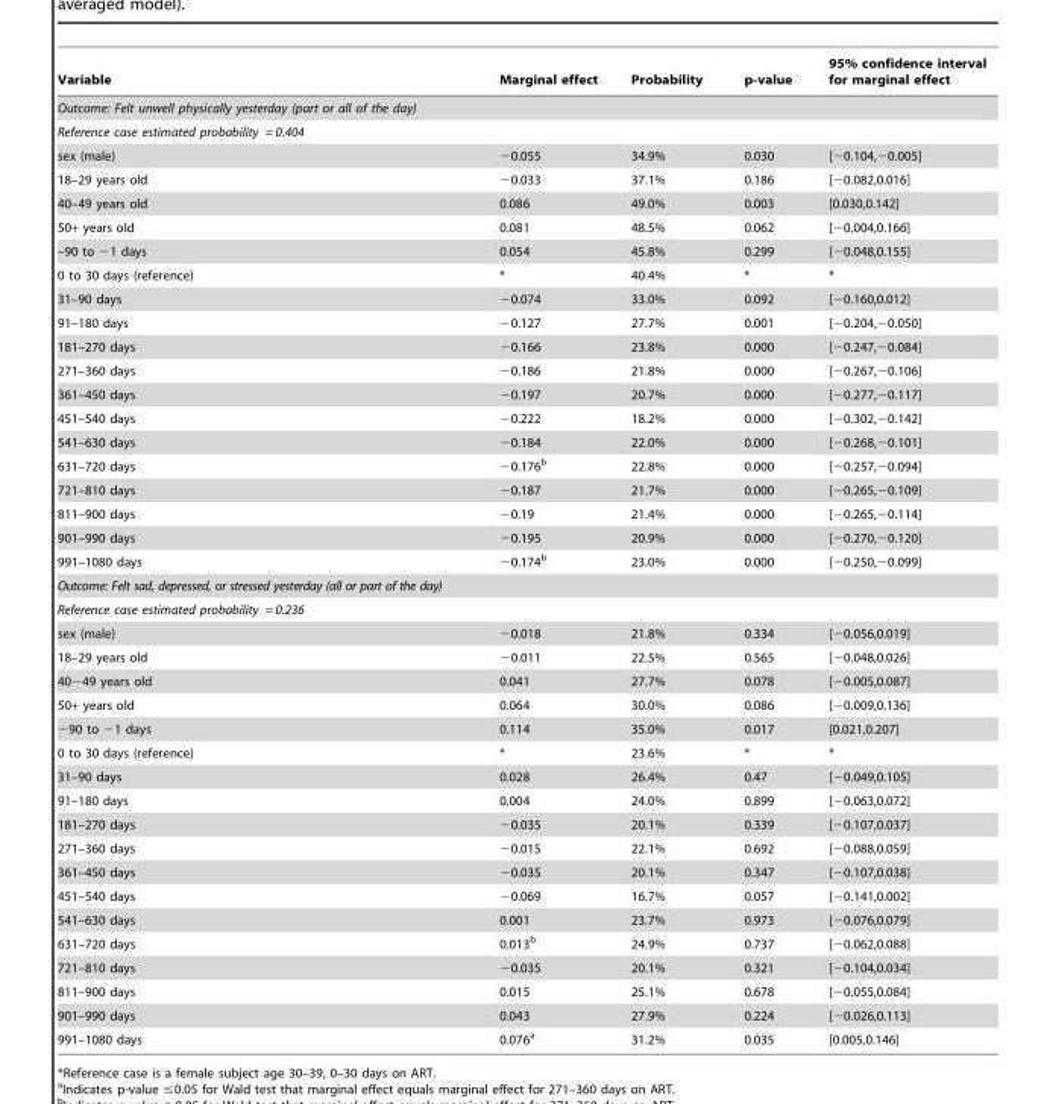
<table><thead><tr><td>Variable</td><td>Marginal effect</td><td>Probability</td><td>p-value</td><td>95% confidence interval for marginal effect</td></tr></thead><tbody><tr><td colspan="5">Outcome: Felt unwell physically yesterday (part or all of the day)</td></tr><tr><td colspan="5">Reference case estimated probability = 0.404</td></tr><tr><td>sex (male)</td><td>−0.055</td><td>34.9%</td><td>0.030</td><td>[−0.104,−0.005]</td></tr><tr><td>18–29 years old</td><td>−0.033</td><td>37.1%</td><td>0.186</td><td>[−0.082,0.016]</td></tr><tr><td>40–49 years old</td><td>0.086</td><td>49.0%</td><td>0.003</td><td>[0.030,0.142]</td></tr><tr><td>50+ years old</td><td>0.081</td><td>48.5%</td><td>0.062</td><td>[−0.004,0.166]</td></tr><tr><td>–90 to −1 days</td><td>0.054</td><td>45.8%</td><td>0.299</td><td>[−0.048,0.155]</td></tr><tr><td>0 to 30 days (reference)</td><td>*</td><td>40.4%</td><td>*</td><td>*</td></tr><tr><td>31–90 days</td><td>−0.074</td><td>33.0%</td><td>0.092</td><td>[−0.160,0.012]</td></tr><tr><td>91–180 days</td><td>−0.127</td><td>27.7%</td><td>0.001</td><td>[−0.204,−0.050]</td></tr><tr><td>181–270 days</td><td>−0.166</td><td>23.8%</td><td>0.000</td><td>[−0.247,−0.084]</td></tr><tr><td>271–360 days</td><td>−0.186</td><td>21.8%</td><td>0.000</td><td>[−0.267,−0.106]</td></tr><tr><td>361–450 days</td><td>−0.197</td><td>20.7%</td><td>0.000</td><td>[−0.277,−0.117]</td></tr><tr><td>451–540 days</td><td>−0.222</td><td>18.2%</td><td>0.000</td><td>[−0.302,−0.142]</td></tr><tr><td>541–630 days</td><td>−0.184</td><td>22.0%</td><td>0.000</td><td>[−0.268,−0.101]</td></tr><tr><td>631–720 days</td><td>−0.176<sup>b</sup></td><td>22.8%</td><td>0.000</td><td>[−0.257,−0.094]</td></tr><tr><td>721–810 days</td><td>−0.187</td><td>21.7%</td><td>0.000</td><td>[−0.265,−0.109]</td></tr><tr><td>811–900 days</td><td>−0.19</td><td>21.4%</td><td>0.000</td><td>[−0.265,−0.114]</td></tr><tr><td>901–990 days</td><td>−0.195</td><td>20.9%</td><td>0.000</td><td>[−0.270,−0.120]</td></tr><tr><td>991–1080 days</td><td>−0.174<sup>b</sup></td><td>23.0%</td><td>0.000</td><td>[−0.250,−0.099]</td></tr><tr><td colspan="5">Outcome: Felt sad, depressed, or stressed yesterday (all or part of the day)</td></tr><tr><td colspan="5">Reference case estimated probability = 0.236</td></tr><tr><td>sex (male)</td><td>−0.018</td><td>21.8%</td><td>0.334</td><td>[−0.056,0.019]</td></tr><tr><td>18–29 years old</td><td>−0.011</td><td>22.5%</td><td>0.565</td><td>[−0.048,0.026]</td></tr><tr><td>40−49 years old</td><td>0.041</td><td>27.7%</td><td>0.078</td><td>[−0.005,0.087]</td></tr><tr><td>50+ years old</td><td>0.064</td><td>30.0%</td><td>0.086</td><td>[−0.009,0.136]</td></tr><tr><td>−90 to −1 days</td><td>0.114</td><td>35.0%</td><td>0.017</td><td>[0.021,0.207]</td></tr><tr><td>0 to 30 days (reference)</td><td>*</td><td>23.6%</td><td>*</td><td>*</td></tr><tr><td>31–90 days</td><td>0.028</td><td>26.4%</td><td>0.47</td><td>[−0.049,0.105]</td></tr><tr><td>91–180 days</td><td>0.004</td><td>24.0%</td><td>0.899</td><td>[−0.063,0.072]</td></tr><tr><td>181–270 days</td><td>−0.035</td><td>20.1%</td><td>0.339</td><td>[−0.107,0.037]</td></tr><tr><td>271–360 days</td><td>−0.015</td><td>22.1%</td><td>0.692</td><td>[−0.088,0.059]</td></tr><tr><td>361–450 days</td><td>−0.035</td><td>20.1%</td><td>0.347</td><td>[−0.107,0.038]</td></tr><tr><td>451–540 days</td><td>−0.069</td><td>16.7%</td><td>0.057</td><td>[−0.141,0.002]</td></tr><tr><td>541–630 days</td><td>0.001</td><td>23.7%</td><td>0.973</td><td>[−0.076,0.079]</td></tr><tr><td>631–720 days</td><td>0.013<sup>b</sup></td><td>24.9%</td><td>0.737</td><td>[−0.062,0.088]</td></tr><tr><td>721–810 days</td><td>−0.035</td><td>20.1%</td><td>0.321</td><td>[−0.104,0.034]</td></tr><tr><td>811–900 days</td><td>0.015</td><td>25.1%</td><td>0.678</td><td>[−0.055,0.084]</td></tr><tr><td>901–990 days</td><td>0.043</td><td>27.9%</td><td>0.224</td><td>[−0.026,0.113]</td></tr><tr><td>991–1080 days</td><td>0.076<sup>a</sup></td><td>31.2%</td><td>0.035</td><td>[0.005,0.146]</td></tr></tbody></table>